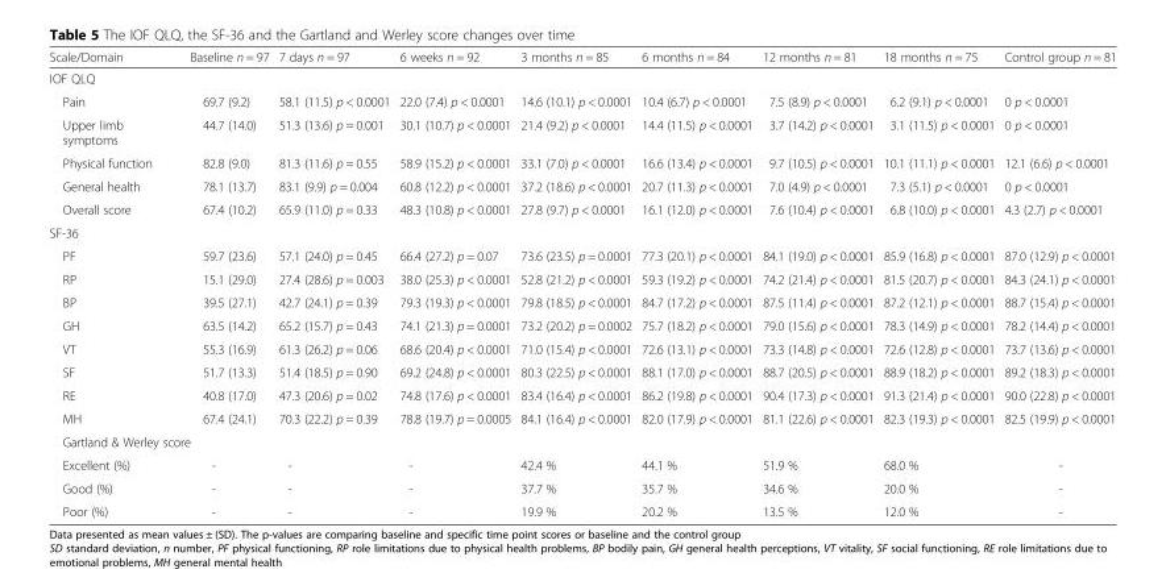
<table><thead><tr><td>Scale/Domain</td><td>Baseline n = 97</td><td>7 days n = 97</td><td>6 weeks n = 92</td><td>3 months n = 85</td><td>6 months n = 84</td><td>12 months n = 81</td><td>18 months n = 75</td><td>Control group n = 81</td></tr></thead><tbody><tr><td colspan="9">IOF QLQ</td></tr><tr><td>Pain</td><td>69.7 (9.2)</td><td>58.1 (11.5) p &lt; 0.0001</td><td>22.0 (7.4) p &lt; 0.0001</td><td>14.6 (10.1) p &lt; 0.0001</td><td>10.4 (6.7) p &lt; 0.0001</td><td>7.5 (8.9) p &lt; 0.0001</td><td>6.2 (9.1) p &lt; 0.0001</td><td>0 p &lt; 0.0001</td></tr><tr><td>Upper limb symptoms</td><td>44.7 (14.0)</td><td>51.3 (13.6) p = 0.001</td><td>30.1 (10.7) p &lt; 0.0001</td><td>21.4 (9.2) p &lt; 0.0001</td><td>14.4 (11.5) p &lt; 0.0001</td><td>3.7 (14.2) p &lt; 0.0001</td><td>3.1 (11.5) p &lt; 0.0001</td><td>0 p &lt; 0.0001</td></tr><tr><td>Physical function</td><td>82.8 (9.0)</td><td>81.3 (11.6) p = 0.55</td><td>58.9 (15.2) p &lt; 0.0001</td><td>33.1 (7.0) p &lt; 0.0001</td><td>16.6 (13.4) p &lt; 0.0001</td><td>9.7 (10.5) p &lt; 0.0001</td><td>10.1 (11.1) p &lt; 0.0001</td><td>12.1 (6.6) p &lt; 0.0001</td></tr><tr><td>General health</td><td>78.1 (13.7)</td><td>83.1 (9.9) p = 0.004</td><td>60.8 (12.2) p &lt; 0.0001</td><td>37.2 (18.6) p &lt; 0.0001</td><td>20.7 (11.3) p &lt; 0.0001</td><td>7.0 (4.9) p &lt; 0.0001</td><td>7.3 (5.1) p &lt; 0.0001</td><td>0 p &lt; 0.0001</td></tr><tr><td>Overall score</td><td>67.4 (10.2)</td><td>65.9 (11.0) p = 0.33</td><td>48.3 (10.8) p &lt; 0.0001</td><td>27.8 (9.7) p &lt; 0.0001</td><td>16.1 (12.0) p &lt; 0.0001</td><td>7.6 (10.4) p &lt; 0.0001</td><td>6.8 (10.0) p &lt; 0.0001</td><td>4.3 (2.7) p &lt; 0.0001</td></tr><tr><td colspan="9">SF-36</td></tr><tr><td>PF</td><td>59.7 (23.6)</td><td>57.1 (24.0) p = 0.45</td><td>66.4 (27.2) p = 0.07</td><td>73.6 (23.5) p = 0.0001</td><td>77.3 (20.1) p &lt; 0.0001</td><td>84.1 (19.0) p &lt; 0.0001</td><td>85.9 (16.8) p &lt; 0.0001</td><td>87.0 (12.9) p &lt; 0.0001</td></tr><tr><td>RP</td><td>15.1 (29.0)</td><td>27.4 (28.6) p = 0.003</td><td>38.0 (25.3) p &lt; 0.0001</td><td>52.8 (21.2) p &lt; 0.0001</td><td>59.3 (19.2) p &lt; 0.0001</td><td>74.2 (21.4) p &lt; 0.0001</td><td>81.5 (20.7) p &lt; 0.0001</td><td>84.3 (24.1) p &lt; 0.0001</td></tr><tr><td>BP</td><td>39.5 (27.1)</td><td>42.7 (24.1) p = 0.39</td><td>79.3 (19.3) p &lt; 0.0001</td><td>79.8 (18.5) p &lt; 0.0001</td><td>84.7 (17.2) p &lt; 0.0001</td><td>87.5 (11.4) p &lt; 0.0001</td><td>87.2 (12.1) p &lt; 0.0001</td><td>88.7 (15.4) p &lt; 0.0001</td></tr><tr><td>GH</td><td>63.5 (14.2)</td><td>65.2 (15.7) p = 0.43</td><td>74.1 (21.3) p = 0.0001</td><td>73.2 (20.2) p = 0.0002</td><td>75.7 (18.2) p &lt; 0.0001</td><td>79.0 (15.6) p &lt; 0.0001</td><td>78.3 (14.9) p &lt; 0.0001</td><td>78.2 (14.4) p &lt; 0.0001</td></tr><tr><td>VT</td><td>55.3 (16.9)</td><td>61.3 (26.2) p = 0.06</td><td>68.6 (20.4) p &lt; 0.0001</td><td>71.0 (15.4) p &lt; 0.0001</td><td>72.6 (13.1) p &lt; 0.0001</td><td>73.3 (14.8) p &lt; 0.0001</td><td>72.6 (12.8) p &lt; 0.0001</td><td>73.7 (13.6) p &lt; 0.0001</td></tr><tr><td>SF</td><td>51.7 (13.3)</td><td>51.4 (18.5) p = 0.90</td><td>69.2 (24.8) p &lt; 0.0001</td><td>80.3 (22.5) p &lt; 0.0001</td><td>88.1 (17.0) p &lt; 0.0001</td><td>88.7 (20.5) p &lt; 0.0001</td><td>88.9 (18.2) p &lt; 0.0001</td><td>89.2 (18.3) p &lt; 0.0001</td></tr><tr><td>RE</td><td>40.8 (17.0)</td><td>47.3 (20.6) p = 0.02</td><td>74.8 (17.6) p &lt; 0.0001</td><td>83.4 (16.4) p &lt; 0.0001</td><td>86.2 (19.8) p &lt; 0.0001</td><td>90.4 (17.3) p &lt; 0.0001</td><td>91.3 (21.4) p &lt; 0.0001</td><td>90.0 (22.8) p &lt; 0.0001</td></tr><tr><td>MH</td><td>67.4 (24.1)</td><td>70.3 (22.2) p = 0.39</td><td>78.8 (19.7) p = 0.0005</td><td>84.1 (16.4) p &lt; 0.0001</td><td>82.0 (17.9) p &lt; 0.0001</td><td>81.1 (22.6) p &lt; 0.0001</td><td>82.3 (19.3) p &lt; 0.0001</td><td>82.5 (19.9) p &lt; 0.0001</td></tr><tr><td colspan="9">Gartland &amp; Werley score</td></tr><tr><td>Excellent (%)</td><td>-</td><td>-</td><td>-</td><td>42.4 %</td><td>44.1 %</td><td>51.9 %</td><td>68.0 %</td><td>-</td></tr><tr><td>Good (%)</td><td>-</td><td>-</td><td>-</td><td>37.7 %</td><td>35.7 %</td><td>34.6 %</td><td>20.0 %</td><td>-</td></tr><tr><td>Poor (%)</td><td>-</td><td>-</td><td>-</td><td>19.9 %</td><td>20.2 %</td><td>13.5 %</td><td>12.0 %</td><td>-</td></tr></tbody></table>